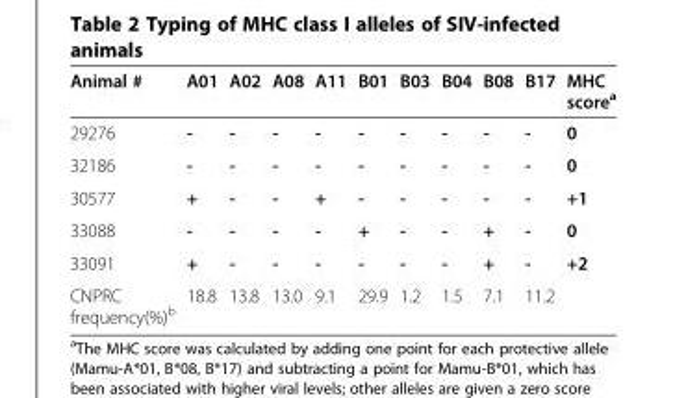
<table><thead><tr><td>Animal #</td><td>A01</td><td>A02</td><td>A08</td><td>A11</td><td>B01</td><td>B03</td><td>B04</td><td>B08</td><td>B17</td><td>MHC score<sup>a</sup></td></tr></thead><tbody><tr><td>29276</td><td>-</td><td>-</td><td>-</td><td>-</td><td>-</td><td>-</td><td>-</td><td>-</td><td>-</td><td>0</td></tr><tr><td>32186</td><td>-</td><td>-</td><td>-</td><td>-</td><td>-</td><td>-</td><td>-</td><td>-</td><td>-</td><td>0</td></tr><tr><td>30577</td><td>+</td><td>-</td><td>-</td><td>+</td><td>-</td><td>-</td><td>-</td><td>-</td><td>-</td><td>+1</td></tr><tr><td>33088</td><td>-</td><td>-</td><td>-</td><td>-</td><td>+</td><td>-</td><td>-</td><td>+</td><td>-</td><td>0</td></tr><tr><td>33091</td><td>+</td><td>-</td><td>-</td><td>-</td><td>-</td><td>-</td><td>-</td><td>+</td><td>-</td><td>+2</td></tr><tr><td>CNPRC frequency(%)<sup>b</sup></td><td>18.8</td><td>13.8</td><td>13.0</td><td>9.1</td><td>29.9</td><td>1.2</td><td>1.5</td><td>7.1</td><td>11.2</td><td></td></tr></tbody></table>